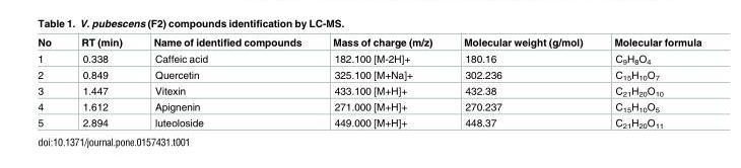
<table><thead><tr><td>No</td><td>RT (min)</td><td>Name of identified compounds</td><td>Mass of charge (m/z)</td><td>Molecular weight (g/mol)</td><td>Molecular formula</td></tr></thead><tbody><tr><td>1</td><td>0.338</td><td>Caffeic acid</td><td>182.100 [M-2H]+</td><td>180.16</td><td>C9H8O4</td></tr><tr><td>2</td><td>0.849</td><td>Quercetin</td><td>325.100 [M+Na]+</td><td>302.236</td><td>C15H10O7</td></tr><tr><td>3</td><td>1.447</td><td>Vitexin</td><td>433.100 [M+H]+</td><td>432.38</td><td>C21H20O10</td></tr><tr><td>4</td><td>1.612</td><td>Apignenin</td><td>271.000 [M+H]+</td><td>270.237</td><td>C15H10O5</td></tr><tr><td>5</td><td>2.894</td><td>luteoloside</td><td>449.000 [M+H]+</td><td>448.37</td><td>C21H20O11</td></tr></tbody></table>